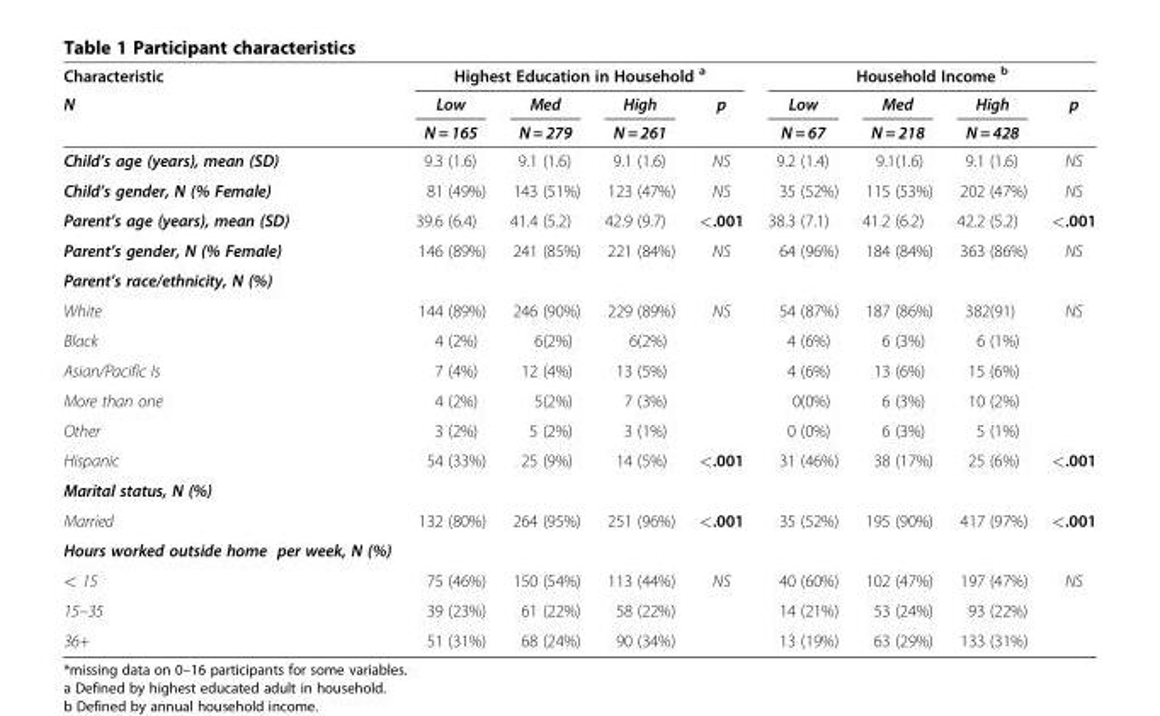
<table><thead><tr><td rowspan="3">Characteristic N</td><td colspan="4">Highest Education in Household <sup>a</sup></td><td colspan="4">Household Income <sup>b</sup></td></tr><tr><td rowspan="2">Low N = 165</td><td rowspan="2">Med N = 279</td><td rowspan="2">High N = 261</td><td rowspan="2">p</td><td rowspan="2">Low N = 67</td><td rowspan="2">Med N = 218</td><td rowspan="2">High N = 428</td><td rowspan="2">p</td></tr><tr></tr></thead><tbody><tr><td>Child’s age (years), mean (SD)</td><td>9.3 (1.6)</td><td>9.1 (1.6)</td><td>9.1 (1.6)</td><td>NS</td><td>9.2 (1.4)</td><td>9.1(1.6)</td><td>9.1 (1.6)</td><td>NS</td></tr><tr><td>Child’s gender, N (% Female)</td><td>81 (49%)</td><td>143 (51%)</td><td>123 (47%)</td><td>NS</td><td>35 (52%)</td><td>115 (53%)</td><td>202 (47%)</td><td>NS</td></tr><tr><td>Parent’s age (years), mean (SD)</td><td>39.6 (6.4)</td><td>41.4 (5.2)</td><td>42.9 (9.7)</td><td>&lt;.001</td><td>38.3 (7.1)</td><td>41.2 (6.2)</td><td>42.2 (5.2)</td><td>&lt;.001</td></tr><tr><td>Parent’s gender, N (% Female)</td><td>146 (89%)</td><td>241 (85%)</td><td>221 (84%)</td><td>NS</td><td>64 (96%)</td><td>184 (84%)</td><td>363 (86%)</td><td>NS</td></tr><tr><td colspan="9">Parent’s race/ethnicity, N (%)</td></tr><tr><td>White</td><td>144 (89%)</td><td>246 (90%)</td><td>229 (89%)</td><td>NS</td><td>54 (87%)</td><td>187 (86%)</td><td>382(91)</td><td>NS</td></tr><tr><td>Black</td><td>4 (2%)</td><td>6(2%)</td><td>6(2%)</td><td></td><td>4 (6%)</td><td>6 (3%)</td><td>6 (1%)</td><td></td></tr><tr><td>Asian/Pacific Is</td><td>7 (4%)</td><td>12 (4%)</td><td>13 (5%)</td><td></td><td>4 (6%)</td><td>13 (6%)</td><td>15 (6%)</td><td></td></tr><tr><td>More than one</td><td>4 (2%)</td><td>5(2%)</td><td>7 (3%)</td><td></td><td>0(0%)</td><td>6 (3%)</td><td>10 (2%)</td><td></td></tr><tr><td>Other</td><td>3 (2%)</td><td>5 (2%)</td><td>3 (1%)</td><td></td><td>0 (0%)</td><td>6 (3%)</td><td>5 (1%)</td><td></td></tr><tr><td>Hispanic</td><td>54 (33%)</td><td>25 (9%)</td><td>14 (5%)</td><td>&lt;.001</td><td>31 (46%)</td><td>38 (17%)</td><td>25 (6%)</td><td>&lt;.001</td></tr><tr><td colspan="9">Marital status, N (%)</td></tr><tr><td>Married</td><td>132 (80%)</td><td>264 (95%)</td><td>251 (96%)</td><td>&lt;.001</td><td>35 (52%)</td><td>195 (90%)</td><td>417 (97%)</td><td>&lt;.001</td></tr><tr><td colspan="9">Hours worked outside home per week, N (%)</td></tr><tr><td>&lt; 15</td><td>75 (46%)</td><td>150 (54%)</td><td>113 (44%)</td><td>NS</td><td>40 (60%)</td><td>102 (47%)</td><td>197 (47%)</td><td>NS</td></tr><tr><td>15–35</td><td>39 (23%)</td><td>61 (22%)</td><td>58 (22%)</td><td></td><td>14 (21%)</td><td>53 (24%)</td><td>93 (22%)</td><td></td></tr><tr><td>36+</td><td>51 (31%)</td><td>68 (24%)</td><td>90 (34%)</td><td></td><td>13 (19%)</td><td>63 (29%)</td><td>133 (31%)</td><td></td></tr></tbody></table>